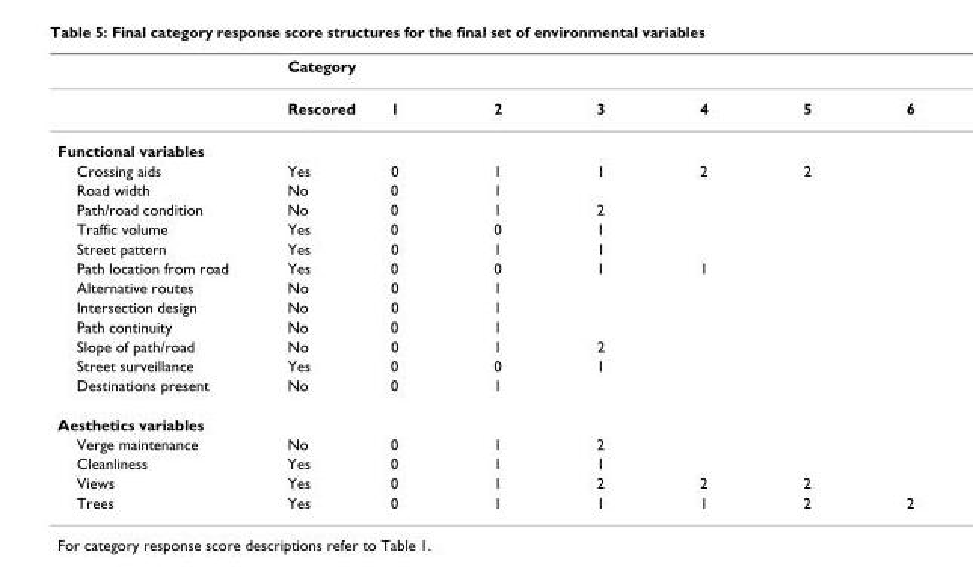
<table><thead><tr><td></td><td>Category</td><td></td><td></td><td></td><td></td><td></td><td></td></tr></thead><tbody><tr><td></td><td>Rescored</td><td>1</td><td>2</td><td>3</td><td>4</td><td>5</td><td>6</td></tr><tr><td colspan="8">Functional variables</td></tr><tr><td>Crossing aids</td><td>Yes</td><td>0</td><td>1</td><td>1</td><td>2</td><td>2</td><td></td></tr><tr><td>Road width</td><td>No</td><td>0</td><td>1</td><td></td><td></td><td></td><td></td></tr><tr><td>Path/road condition</td><td>No</td><td>0</td><td>1</td><td>2</td><td></td><td></td><td></td></tr><tr><td>Traffic volume</td><td>Yes</td><td>0</td><td>0</td><td>1</td><td></td><td></td><td></td></tr><tr><td>Street pattern</td><td>Yes</td><td>0</td><td>1</td><td>1</td><td></td><td></td><td></td></tr><tr><td>Path location from road</td><td>Yes</td><td>0</td><td>0</td><td>1</td><td>1</td><td></td><td></td></tr><tr><td>Alternative routes</td><td>No</td><td>0</td><td>1</td><td></td><td></td><td></td><td></td></tr><tr><td>Intersection design</td><td>No</td><td>0</td><td>1</td><td></td><td></td><td></td><td></td></tr><tr><td>Path continuity</td><td>No</td><td>0</td><td>1</td><td></td><td></td><td></td><td></td></tr><tr><td>Slope of path/road</td><td>No</td><td>0</td><td>1</td><td>2</td><td></td><td></td><td></td></tr><tr><td>Street surveillance</td><td>Yes</td><td>0</td><td>0</td><td>1</td><td></td><td></td><td></td></tr><tr><td>Destinations present</td><td>No</td><td>0</td><td>1</td><td></td><td></td><td></td><td></td></tr><tr><td colspan="8">Aesthetics variables</td></tr><tr><td>Verge maintenance</td><td>No</td><td>0</td><td>1</td><td>2</td><td></td><td></td><td></td></tr><tr><td>Cleanliness</td><td>Yes</td><td>0</td><td>1</td><td>1</td><td></td><td></td><td></td></tr><tr><td>Views</td><td>Yes</td><td>0</td><td>1</td><td>2</td><td>2</td><td>2</td><td></td></tr><tr><td>Trees</td><td>Yes</td><td>0</td><td>1</td><td>1</td><td>1</td><td>2</td><td>2</td></tr></tbody></table>